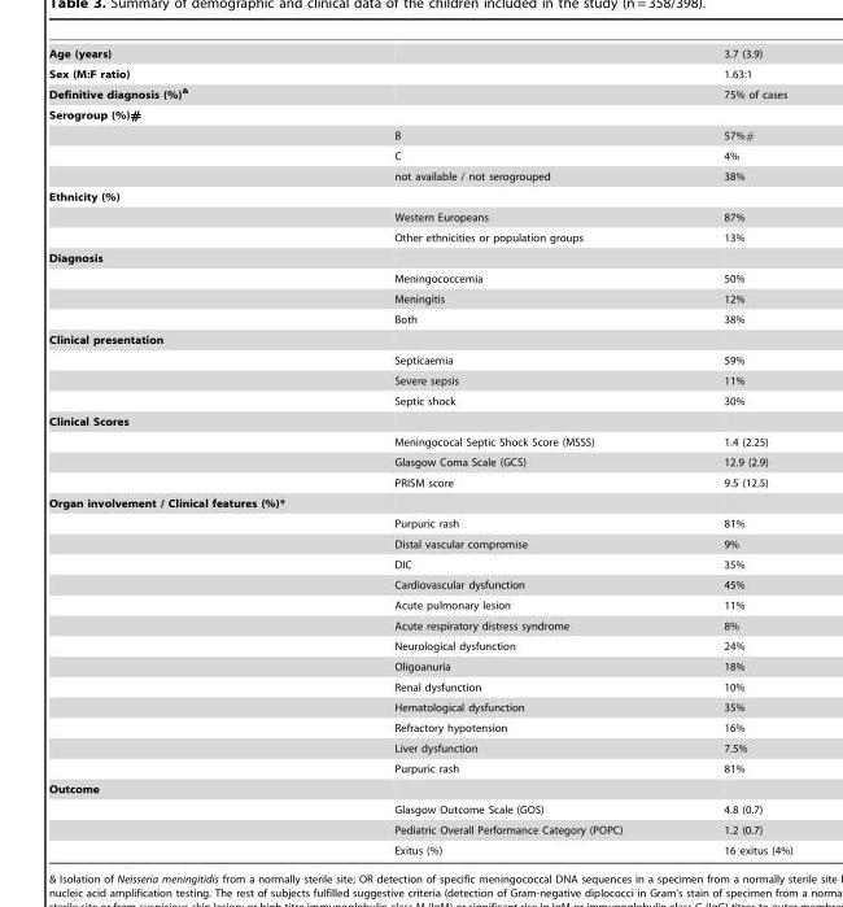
<table><tbody><tr><td>Age (years)</td><td></td><td>3.7 (3.9)</td></tr><tr><td>Sex (M:F ratio)</td><td></td><td>1.63:1</td></tr><tr><td>Definitive diagnosis (%)<sup>&amp;</sup></td><td></td><td>75% of cases</td></tr><tr><td colspan="3">Serogroup (%)#</td></tr><tr><td></td><td>B</td><td>57%#</td></tr><tr><td></td><td>C</td><td>4%</td></tr><tr><td></td><td>not available / not serogrouped</td><td>38%</td></tr><tr><td colspan="3">Ethnicity (%)</td></tr><tr><td></td><td>Western Europeans</td><td>87%</td></tr><tr><td></td><td>Other ethnicities or population groups</td><td>13%</td></tr><tr><td colspan="3">Diagnosis</td></tr><tr><td></td><td>Meningococcemia</td><td>50%</td></tr><tr><td></td><td>Meningitis</td><td>12%</td></tr><tr><td></td><td>Both</td><td>38%</td></tr><tr><td colspan="3">Clinical presentation</td></tr><tr><td></td><td>Septicaemia</td><td>59%</td></tr><tr><td></td><td>Severe sepsis</td><td>11%</td></tr><tr><td></td><td>Septic shock</td><td>30%</td></tr><tr><td colspan="3">Clinical Scores</td></tr><tr><td></td><td>Meningococal Septic Shock Score (MSSS)</td><td>1.4 (2.25)</td></tr><tr><td></td><td>Glasgow Coma Scale (GCS)</td><td>12.9 (2.9)</td></tr><tr><td></td><td>PRISM score</td><td>9.5 (12.5)</td></tr><tr><td colspan="3">Organ involvement / Clinical features (%)*</td></tr><tr><td></td><td>Purpuric rash</td><td>81%</td></tr><tr><td></td><td>Distal vascular compromise</td><td>9%</td></tr><tr><td></td><td>DIC</td><td>35%</td></tr><tr><td></td><td>Cardiovascular dysfunction</td><td>45%</td></tr><tr><td></td><td>Acute pulmonary lesion</td><td>11%</td></tr><tr><td></td><td>Acute respiratory distress syndrome</td><td>8%</td></tr><tr><td></td><td>Neurological dysfunction</td><td>24%</td></tr><tr><td></td><td>Oligoanuria</td><td>18%</td></tr><tr><td></td><td>Renal dysfunction</td><td>10%</td></tr><tr><td></td><td>Hematological dysfunction</td><td>35%</td></tr><tr><td></td><td>Refractory hypotension</td><td>16%</td></tr><tr><td></td><td>Liver dysfunction</td><td>7.5%</td></tr><tr><td></td><td>Purpuric rash</td><td>81%</td></tr><tr><td colspan="3">Outcome</td></tr><tr><td></td><td>Glasgow Outcome Scale (GOS)</td><td>4.8 (0.7)</td></tr><tr><td></td><td>Pediatric Overall Performance Category (POPC)</td><td>1.2 (0.7)</td></tr><tr><td></td><td>Exitus (%)</td><td>16 exitus (4%)</td></tr></tbody></table>